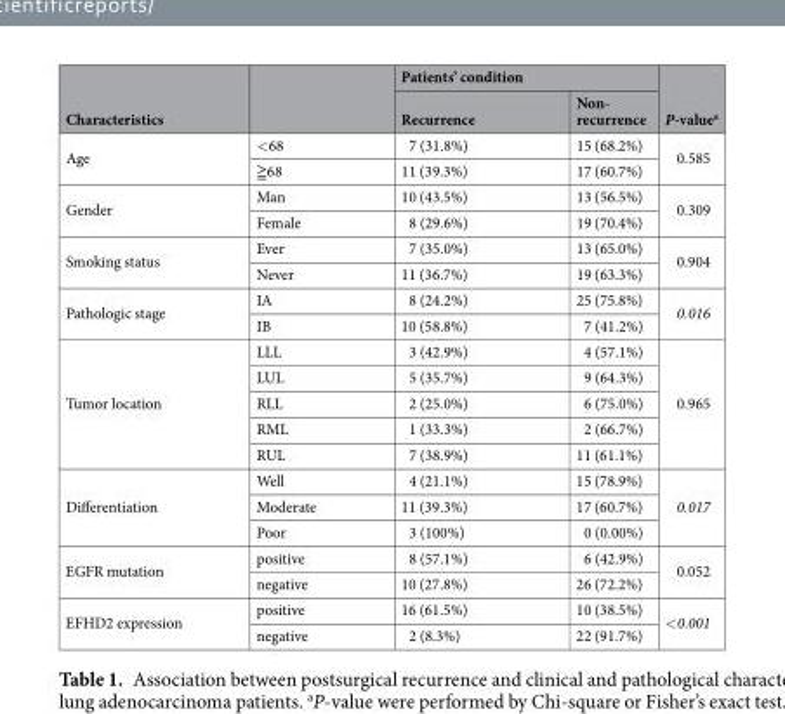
<table><thead><tr><td rowspan="2">Characteristics</td><td rowspan="2"></td><td colspan="2">Patients’ condition</td><td rowspan="2">P-value<sup>a</sup></td></tr><tr><td>Recurrence</td><td>Non- recurrence</td></tr></thead><tbody><tr><td rowspan="2">Age</td><td>&lt;68</td><td>7 (31.8%)</td><td>15 (68.2%)</td><td rowspan="2">0.585</td></tr><tr><td>≧68</td><td>11 (39.3%)</td><td>17 (60.7%)</td></tr><tr><td rowspan="2">Gender</td><td>Man</td><td>10 (43.5%)</td><td>13 (56.5%)</td><td rowspan="2">0.309</td></tr><tr><td>Female</td><td>8 (29.6%)</td><td>19 (70.4%)</td></tr><tr><td rowspan="2">Smoking status</td><td>Ever</td><td>7 (35.0%)</td><td>13 (65.0%)</td><td rowspan="2">0.904</td></tr><tr><td>Never</td><td>11 (36.7%)</td><td>19 (63.3%)</td></tr><tr><td rowspan="2">Pathologic stage</td><td>IA</td><td>8 (24.2%)</td><td>25 (75.8%)</td><td rowspan="2">0.016</td></tr><tr><td>IB</td><td>10 (58.8%)</td><td>7 (41.2%)</td></tr><tr><td rowspan="5">Tumor location</td><td>LLL</td><td>3 (42.9%)</td><td>4 (57.1%)</td><td rowspan="5">0.965</td></tr><tr><td>LUL</td><td>5 (35.7%)</td><td>9 (64.3%)</td></tr><tr><td>RLL</td><td>2 (25.0%)</td><td>6 (75.0%)</td></tr><tr><td>RML</td><td>1 (33.3%)</td><td>2 (66.7%)</td></tr><tr><td>RUL</td><td>7 (38.9%)</td><td>11 (61.1%)</td></tr><tr><td rowspan="3">Differentiation</td><td>Well</td><td>4 (21.1%)</td><td>15 (78.9%)</td><td rowspan="3">0.017</td></tr><tr><td>Moderate</td><td>11 (39.3%)</td><td>17 (60.7%)</td></tr><tr><td>Poor</td><td>3 (100%)</td><td>0 (0.00%)</td></tr><tr><td rowspan="2">EGFR mutation</td><td>positive</td><td>8 (57.1%)</td><td>6 (42.9%)</td><td rowspan="2">0.052</td></tr><tr><td>negative</td><td>10 (27.8%)</td><td>26 (72.2%)</td></tr><tr><td rowspan="2">EFHD2 expression</td><td>positive</td><td>16 (61.5%)</td><td>10 (38.5%)</td><td rowspan="2">&lt;0.001</td></tr><tr><td>negative</td><td>2 (8.3%)</td><td>22 (91.7%)</td></tr></tbody></table>